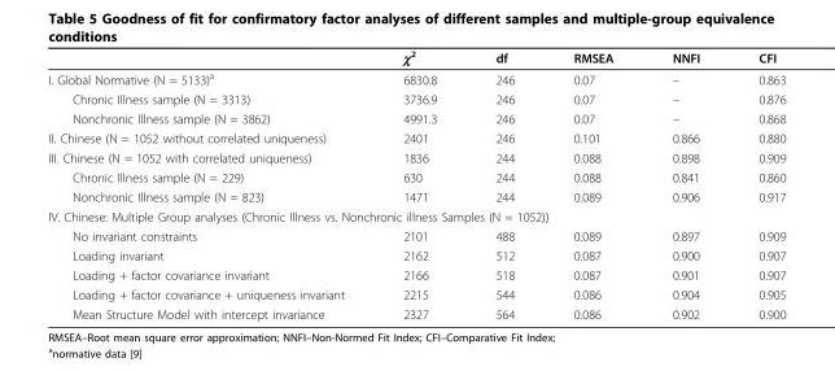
<table><thead><tr><td></td><td>χ<sup>2</sup></td><td>df</td><td>RMSEA</td><td>NNFI</td><td>CFI</td></tr></thead><tbody><tr><td>I. Global Normative (N = 5133)<sup>a</sup></td><td>6830.8</td><td>246</td><td>0.07</td><td>–</td><td>0.863</td></tr><tr><td>Chronic Illness sample (N = 3313)</td><td>3736.9</td><td>246</td><td>0.07</td><td>–</td><td>0.876</td></tr><tr><td>Nonchronic Illness sample (N = 3862)</td><td>4991.3</td><td>246</td><td>0.07</td><td>–</td><td>0.868</td></tr><tr><td>II. Chinese (N = 1052 without correlated uniqueness)</td><td>2401</td><td>246</td><td>0.101</td><td>0.866</td><td>0.880</td></tr><tr><td>III. Chinese (N = 1052 with correlated uniqueness)</td><td>1836</td><td>244</td><td>0.088</td><td>0.898</td><td>0.909</td></tr><tr><td>Chronic Illness sample (N = 229)</td><td>630</td><td>244</td><td>0.088</td><td>0.841</td><td>0.860</td></tr><tr><td>Nonchronic Illness sample (N = 823)</td><td>1471</td><td>244</td><td>0.089</td><td>0.906</td><td>0.917</td></tr><tr><td colspan="6">IV. Chinese: Multiple Group analyses (Chronic Illness vs. Nonchronic illness Samples (N = 1052))</td></tr><tr><td>No invariant constraints</td><td>2101</td><td>488</td><td>0.089</td><td>0.897</td><td>0.909</td></tr><tr><td>Loading invariant</td><td>2162</td><td>512</td><td>0.087</td><td>0.900</td><td>0.907</td></tr><tr><td>Loading + factor covariance invariant</td><td>2166</td><td>518</td><td>0.087</td><td>0.901</td><td>0.907</td></tr><tr><td>Loading + factor covariance + uniqueness invariant</td><td>2215</td><td>544</td><td>0.086</td><td>0.904</td><td>0.905</td></tr><tr><td>Mean Structure Model with intercept invariance</td><td>2327</td><td>564</td><td>0.086</td><td>0.902</td><td>0.900</td></tr></tbody></table>